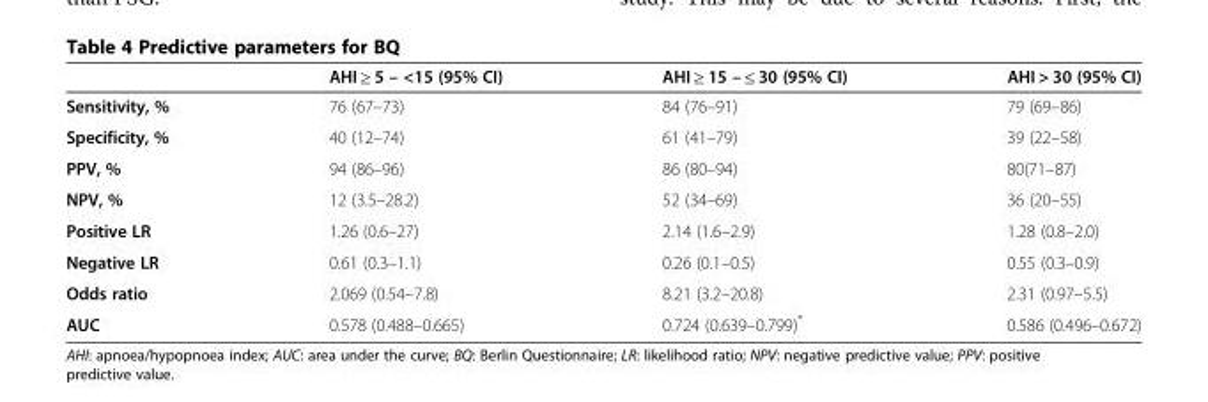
<table><thead><tr><td></td><td>AHI ≥ 5 – &lt;15 (95% CI)</td><td>AHI ≥ 15 – ≤ 30 (95% CI)</td><td>AHI &gt; 30 (95% CI)</td></tr></thead><tbody><tr><td>Sensitivity, %</td><td>76 (67–73)</td><td>84 (76–91)</td><td>79 (69–86)</td></tr><tr><td>Specificity, %</td><td>40 (12–74)</td><td>61 (41–79)</td><td>39 (22–58)</td></tr><tr><td>PPV, %</td><td>94 (86–96)</td><td>86 (80–94)</td><td>80(71–87)</td></tr><tr><td>NPV, %</td><td>12 (3.5–28.2)</td><td>52 (34–69)</td><td>36 (20–55)</td></tr><tr><td>Positive LR</td><td>1.26 (0.6–27)</td><td>2.14 (1.6–2.9)</td><td>1.28 (0.8–2.0)</td></tr><tr><td>Negative LR</td><td>0.61 (0.3–1.1)</td><td>0.26 (0.1–0.5)</td><td>0.55 (0.3–0.9)</td></tr><tr><td>Odds ratio</td><td>2.069 (0.54–7.8)</td><td>8.21 (3.2–20.8)</td><td>2.31 (0.97–5.5)</td></tr><tr><td>AUC</td><td>0.578 (0.488–0.665)</td><td>0.724 (0.639–0.799)*</td><td>0.586 (0.496–0.672)</td></tr></tbody></table>